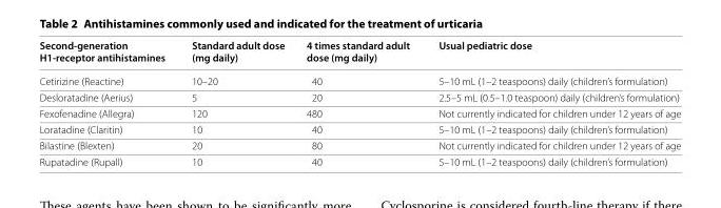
<table><thead><tr><td>Second-generation H1-receptor antihistamines</td><td>Standard adult dose (mg daily)</td><td>4 times standard adult dose (mg daily)</td><td>Usual pediatric dose</td></tr></thead><tbody><tr><td>Cetirizine (Reactine)</td><td>10–20</td><td>40</td><td>5–10 mL (1–2 teaspoons) daily (children’s formulation)</td></tr><tr><td>Desloratadine (Aerius)</td><td>5</td><td>20</td><td>2.5–5 mL (0.5–1.0 teaspoon) daily (children’s formulation)</td></tr><tr><td>Fexofenadine (Allegra)</td><td>120</td><td>480</td><td>Not currently indicated for children under 12 years of age</td></tr><tr><td>Loratadine (Claritin)</td><td>10</td><td>40</td><td>5–10 mL (1–2 teaspoons) daily (children’s formulation)</td></tr><tr><td>Bilastine (Blexten)</td><td>20</td><td>80</td><td>Not currently indicated for children under 12 years of age</td></tr><tr><td>Rupatadine (Rupall)</td><td>10</td><td>40</td><td>5–10 mL (1–2 teaspoons) daily (children’s formulation)</td></tr></tbody></table>